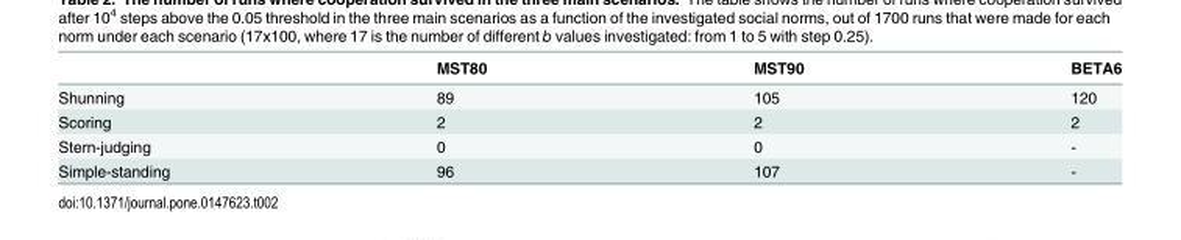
<table><thead><tr><td></td><td>MST80</td><td>MST90</td><td>BETA6</td></tr></thead><tbody><tr><td>Shunning</td><td>89</td><td>105</td><td>120</td></tr><tr><td>Scoring</td><td>2</td><td>2</td><td>2</td></tr><tr><td>Stern-judging</td><td>0</td><td>0</td><td>-</td></tr><tr><td>Simple-standing</td><td>96</td><td>107</td><td>-</td></tr></tbody></table>